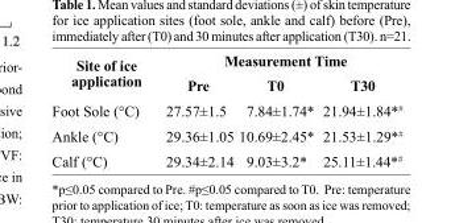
<table><thead><tr><td rowspan="2">Site of ice application</td><td colspan="3">Measurement Time</td></tr><tr><td>Pre</td><td>T0</td><td>T30</td></tr></thead><tbody><tr><td>Foot Sole (°C)</td><td>27.57±1.5</td><td>7.84±1.74*</td><td>21.94±1.84*<sup>#</sup></td></tr><tr><td>Ankle (°C)</td><td>29.36±1.05</td><td>10.69±2.45*</td><td>21.53±1.29*<sup>#</sup></td></tr><tr><td>Calf (°C)</td><td>29.34±2.14</td><td>9.03±3.2*</td><td>25.11±1.44*<sup>#</sup></td></tr></tbody></table>